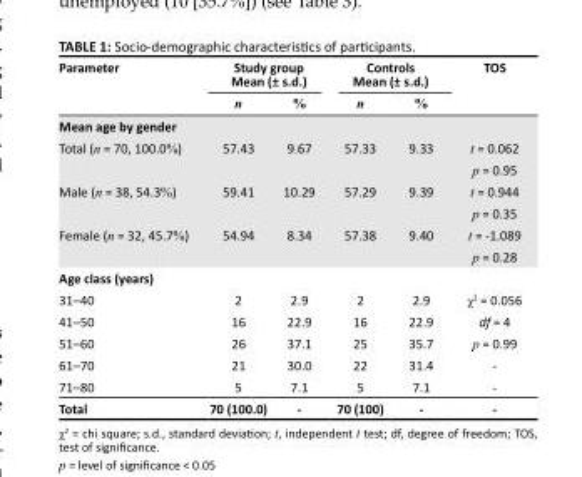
<table><thead><tr><td rowspan="2">Parameter</td><td colspan="2">Study group Mean (± s.d.)</td><td colspan="2">Controls Mean (± s.d.)</td><td rowspan="2">TOS</td></tr><tr><td>n</td><td>%</td><td>n</td><td>%</td></tr></thead><tbody><tr><td colspan="6">Mean age by gender</td></tr><tr><td>Total (n = 70, 100.0%)</td><td>57.43</td><td>9.67</td><td>57.33</td><td>9.33</td><td>t = 0.062 p = 0.95</td></tr><tr><td>Male (n = 38, 54.3%)</td><td>59.41</td><td>10.29</td><td>57.29</td><td>9.39</td><td>t = 0.944 p = 0.35</td></tr><tr><td>Female (n = 32, 45.7%)</td><td>54.94</td><td>8.34</td><td>57.38</td><td>9.40</td><td>t = -1.089 p = 0.28</td></tr><tr><td colspan="6">Age class (years)</td></tr><tr><td>31–40</td><td>2</td><td>2.9</td><td>2</td><td>2.9</td><td>χ<sup>2</sup> = 0.056</td></tr><tr><td>41–50</td><td>16</td><td>22.9</td><td>16</td><td>22.9</td><td>df = 4</td></tr><tr><td>51–60</td><td>26</td><td>37.1</td><td>25</td><td>35.7</td><td>p = 0.99</td></tr><tr><td>61–70</td><td>21</td><td>30.0</td><td>22</td><td>31.4</td><td>-</td></tr><tr><td>71–80</td><td>5</td><td>7.1</td><td>5</td><td>7.1</td><td>-</td></tr><tr><td>Total</td><td>70 (100.0)</td><td>-</td><td>70 (100)</td><td>-</td><td>-</td></tr></tbody></table>